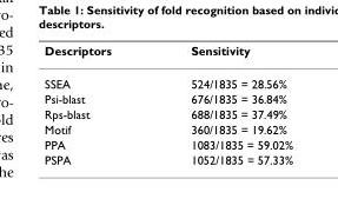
<table><thead><tr><td>Descriptors</td><td>Sensitivity</td></tr></thead><tbody><tr><td>SSEA</td><td>524/1835 = 28.56%</td></tr><tr><td>Psi-blast</td><td>676/1835 = 36.84%</td></tr><tr><td>Rps-blast</td><td>688/1835 = 37.49%</td></tr><tr><td>Motif</td><td>360/1835 = 19.62%</td></tr><tr><td>PPA</td><td>1083/1835 = 59.02%</td></tr><tr><td>PSPA</td><td>1052/1835 = 57.33%</td></tr></tbody></table>